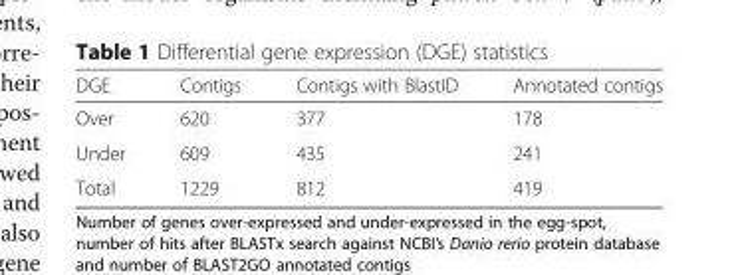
<table><thead><tr><td>DGE</td><td>Contigs</td><td>Contigs with BlastID</td><td>Annotated contigs</td></tr></thead><tbody><tr><td>Over</td><td>620</td><td>377</td><td>178</td></tr><tr><td>Under</td><td>609</td><td>435</td><td>241</td></tr><tr><td>Total</td><td>1229</td><td>812</td><td>419</td></tr></tbody></table>